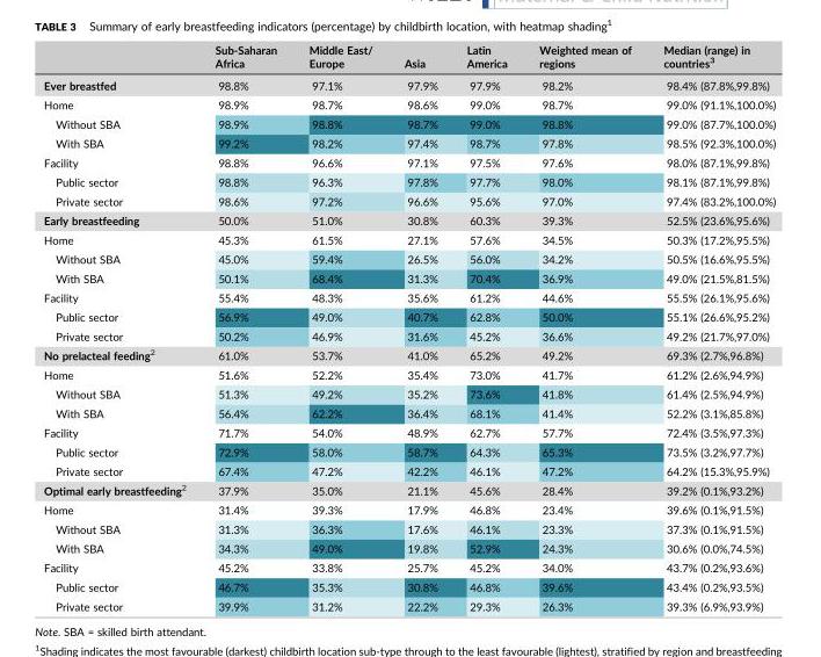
<table><thead><tr><td></td><td>Sub‐Saharan Africa</td><td>Middle East/ Europe</td><td>Asia</td><td>Latin America</td><td>Weighted mean of regions</td><td>Median (range) in countries<sup>3</sup></td></tr></thead><tbody><tr><td>Ever breastfed</td><td>98.8%</td><td>97.1%</td><td>97.9%</td><td>97.9%</td><td>98.2%</td><td>98.4% (87.8%,99.8%)</td></tr><tr><td>Home</td><td>98.9%</td><td>98.7%</td><td>98.6%</td><td>99.0%</td><td>98.7%</td><td>99.0% (91.1%,100.0%)</td></tr><tr><td>Without SBA</td><td>98.9%</td><td>98.8%</td><td>98.7%</td><td>99.0%</td><td>98.8%</td><td>99.0% (87.7%,100.0%)</td></tr><tr><td>With SBA</td><td>99.2%</td><td>98.2%</td><td>97.4%</td><td>98.7%</td><td>97.8%</td><td>98.5% (92.3%,100.0%)</td></tr><tr><td>Facility</td><td>98.8%</td><td>96.6%</td><td>97.1%</td><td>97.5%</td><td>97.6%</td><td>98.0% (87.1%,99.8%)</td></tr><tr><td>Public sector</td><td>98.8%</td><td>96.3%</td><td>97.8%</td><td>97.7%</td><td>98.0%</td><td>98.1% (87.1%,99.8%)</td></tr><tr><td>Private sector</td><td>98.6%</td><td>97.2%</td><td>96.6%</td><td>95.6%</td><td>97.0%</td><td>97.4% (83.2%,100.0%)</td></tr><tr><td>Early breastfeeding</td><td>50.0%</td><td>51.0%</td><td>30.8%</td><td>60.3%</td><td>39.3%</td><td>52.5% (23.6%,95.6%)</td></tr><tr><td>Home</td><td>45.3%</td><td>61.5%</td><td>27.1%</td><td>57.6%</td><td>34.5%</td><td>50.3% (17.2%,95.5%)</td></tr><tr><td>Without SBA</td><td>45.0%</td><td>59.4%</td><td>26.5%</td><td>56.0%</td><td>34.2%</td><td>50.5% (16.6%,95.5%)</td></tr><tr><td>With SBA</td><td>50.1%</td><td>68.4%</td><td>31.3%</td><td>70.4%</td><td>36.9%</td><td>49.0% (21.5%,81.5%)</td></tr><tr><td>Facility</td><td>55.4%</td><td>48.3%</td><td>35.6%</td><td>61.2%</td><td>44.6%</td><td>55.5% (26.1%,95.6%)</td></tr><tr><td>Public sector</td><td>56.9%</td><td>49.0%</td><td>40.7%</td><td>62.8%</td><td>50.0%</td><td>55.1% (26.6%,95.2%)</td></tr><tr><td>Private sector</td><td>50.2%</td><td>46.9%</td><td>31.6%</td><td>45.2%</td><td>36.6%</td><td>49.2% (21.7%,97.0%)</td></tr><tr><td>No prelacteal feeding2</td><td>61.0%</td><td>53.7%</td><td>41.0%</td><td>65.2%</td><td>49.2%</td><td>69.3% (2.7%,96.8%)</td></tr><tr><td>Home</td><td>51.6%</td><td>52.2%</td><td>35.4%</td><td>73.0%</td><td>41.7%</td><td>61.2% (2.6%,94.9%)</td></tr><tr><td>Without SBA</td><td>51.3%</td><td>49.2%</td><td>35.2%</td><td>73.6%</td><td>41.8%</td><td>61.4% (2.5%,94.9%)</td></tr><tr><td>With SBA</td><td>56.4%</td><td>62.2%</td><td>36.4%</td><td>68.1%</td><td>41.4%</td><td>52.2% (3.1%,85.8%)</td></tr><tr><td>Facility</td><td>71.7%</td><td>54.0%</td><td>48.9%</td><td>62.7%</td><td>57.7%</td><td>72.4% (3.5%,97.3%)</td></tr><tr><td>Public sector</td><td>72.9%</td><td>58.0%</td><td>58.7%</td><td>64.3%</td><td>65.3%</td><td>73.5% (3.2%,97.7%)</td></tr><tr><td>Private sector</td><td>67.4%</td><td>47.2%</td><td>42.2%</td><td>46.1%</td><td>47.2%</td><td>64.2% (15.3%,95.9%)</td></tr><tr><td>Optimal early breastfeeding2</td><td>37.9%</td><td>35.0%</td><td>21.1%</td><td>45.6%</td><td>28.4%</td><td>39.2% (0.1%,93.2%)</td></tr><tr><td>Home</td><td>31.4%</td><td>39.3%</td><td>17.9%</td><td>46.8%</td><td>23.4%</td><td>39.6% (0.1%,91.5%)</td></tr><tr><td>Without SBA</td><td>31.3%</td><td>36.3%</td><td>17.6%</td><td>46.1%</td><td>23.3%</td><td>37.3% (0.1%,91.5%)</td></tr><tr><td>With SBA</td><td>34.3%</td><td>49.0%</td><td>19.8%</td><td>52.9%</td><td>24.3%</td><td>30.6% (0.0%,74.5%)</td></tr><tr><td>Facility</td><td>45.2%</td><td>33.8%</td><td>25.7%</td><td>45.2%</td><td>34.0%</td><td>43.7% (0.2%,93.6%)</td></tr><tr><td>Public sector</td><td>46.7%</td><td>35.3%</td><td>30.8%</td><td>46.8%</td><td>39.6%</td><td>43.4% (0.2%,93.5%)</td></tr><tr><td>Private sector</td><td>39.9%</td><td>31.2%</td><td>22.2%</td><td>29.3%</td><td>26.3%</td><td>39.3% (6.9%,93.9%)</td></tr></tbody></table>